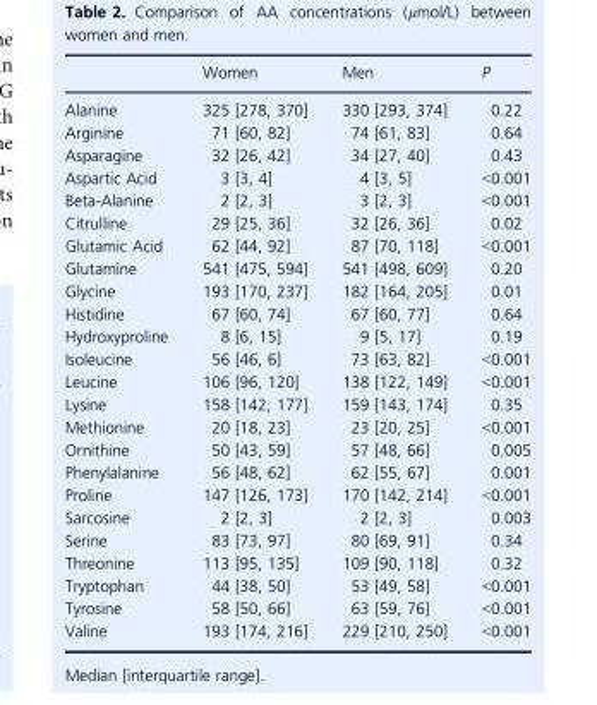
<table><thead><tr><td></td><td>Women</td><td>Men</td><td>P</td></tr></thead><tbody><tr><td>Alanine</td><td>325 [278, 370]</td><td>330 [293, 374]</td><td>0.22</td></tr><tr><td>Arginine</td><td>71 [60, 82]</td><td>74 [61, 83]</td><td>0.64</td></tr><tr><td>Asparagine</td><td>32 [26, 42]</td><td>34 [27, 40]</td><td>0.43</td></tr><tr><td>Aspartic Acid</td><td>3 [3, 4]</td><td>4 [3, 5]</td><td>&lt;0.001</td></tr><tr><td>Beta-Alanine</td><td>2 [2, 3]</td><td>3 [2, 3]</td><td>&lt;0.001</td></tr><tr><td>Citrulline</td><td>29 [25, 36]</td><td>32 [26, 36]</td><td>0.02</td></tr><tr><td>Glutamic Acid</td><td>62 [44, 92]</td><td>87 [70, 118]</td><td>&lt;0.001</td></tr><tr><td>Glutamine</td><td>541 [475, 594]</td><td>541 [498, 609]</td><td>0.20</td></tr><tr><td>Glycine</td><td>193 [170, 237]</td><td>182 [164, 205]</td><td>0.01</td></tr><tr><td>Histidine</td><td>67 [60, 74]</td><td>67 [60, 77]</td><td>0.64</td></tr><tr><td>Hydroxyproline</td><td>8 [6, 15]</td><td>9 [5, 17]</td><td>0.19</td></tr><tr><td>Isoleucine</td><td>56 [46, 6]</td><td>73 [63, 82]</td><td>&lt;0.001</td></tr><tr><td>Leucine</td><td>106 [96, 120]</td><td>138 [122, 149]</td><td>&lt;0.001</td></tr><tr><td>Lysine</td><td>158 [142, 177]</td><td>159 [143, 174]</td><td>0.35</td></tr><tr><td>Methionine</td><td>20 [18, 23]</td><td>23 [20, 25]</td><td>&lt;0.001</td></tr><tr><td>Ornithine</td><td>50 [43, 59]</td><td>57 [48, 66]</td><td>0.005</td></tr><tr><td>Phenylalanine</td><td>56 [48, 62]</td><td>62 [55, 67]</td><td>0.001</td></tr><tr><td>Proline</td><td>147 [126, 173]</td><td>170 [142, 214]</td><td>&lt;0.001</td></tr><tr><td>Sarcosine</td><td>2 [2, 3]</td><td>2 [2, 3]</td><td>0.003</td></tr><tr><td>Serine</td><td>83 [73, 97]</td><td>80 [69, 91]</td><td>0.34</td></tr><tr><td>Threonine</td><td>113 [95, 135]</td><td>109 [90, 118]</td><td>0.32</td></tr><tr><td>Tryptophan</td><td>44 [38, 50]</td><td>53 [49, 58]</td><td>&lt;0.001</td></tr><tr><td>Tyrosine</td><td>58 [50, 66]</td><td>63 [59, 76]</td><td>&lt;0.001</td></tr><tr><td>Valine</td><td>193 [174, 216]</td><td>229 [210, 250]</td><td>&lt;0.001</td></tr></tbody></table>